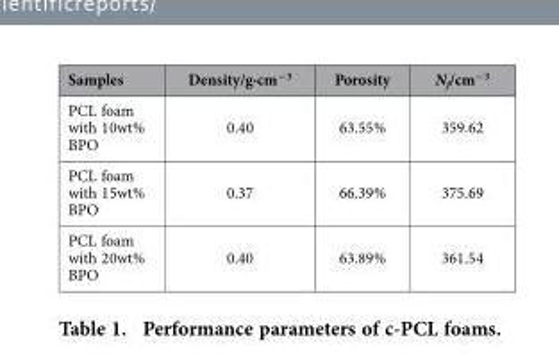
<table><thead><tr><td>Samples</td><td>Density/g·cm<sup>−3</sup></td><td>Porosity</td><td>N<sub>f</sub>/cm<sup>−3</sup></td></tr></thead><tbody><tr><td>PCL foam with 10wt% BPO</td><td>0.40</td><td>63.55%</td><td>359.62</td></tr><tr><td>PCL foam with 15wt% BPO</td><td>0.37</td><td>66.39%</td><td>375.69</td></tr><tr><td>PCL foam with 20wt% BPO</td><td>0.40</td><td>63.89%</td><td>361.54</td></tr></tbody></table>